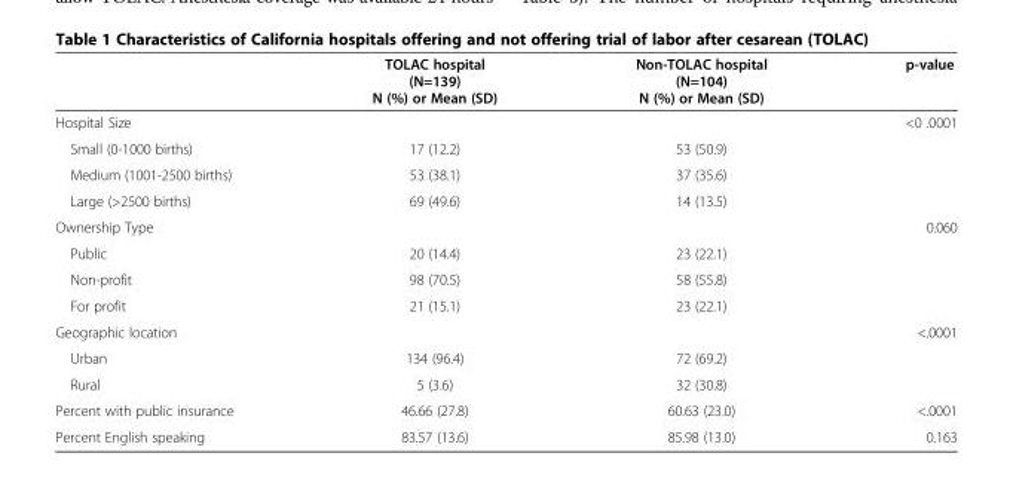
<table><thead><tr><td></td><td>TOLAC hospital (N=139) N (%) or Mean (SD)</td><td>Non-TOLAC hospital (N=104) N (%) or Mean (SD)</td><td>p-value</td></tr></thead><tbody><tr><td>Hospital Size</td><td></td><td></td><td>&lt;0 .0001</td></tr><tr><td>Small (0-1000 births)</td><td>17 (12.2)</td><td>53 (50.9)</td><td></td></tr><tr><td>Medium (1001-2500 births)</td><td>53 (38.1)</td><td>37 (35.6)</td><td></td></tr><tr><td>Large (&gt;2500 births)</td><td>69 (49.6)</td><td>14 (13.5)</td><td></td></tr><tr><td>Ownership Type</td><td></td><td></td><td>0.060</td></tr><tr><td>Public</td><td>20 (14.4)</td><td>23 (22.1)</td><td></td></tr><tr><td>Non-profit</td><td>98 (70.5)</td><td>58 (55.8)</td><td></td></tr><tr><td>For profit</td><td>21 (15.1)</td><td>23 (22.1)</td><td></td></tr><tr><td>Geographic location</td><td></td><td></td><td>&lt;.0001</td></tr><tr><td>Urban</td><td>134 (96.4)</td><td>72 (69.2)</td><td></td></tr><tr><td>Rural</td><td>5 (3.6)</td><td>32 (30.8)</td><td></td></tr><tr><td>Percent with public insurance</td><td>46.66 (27.8)</td><td>60.63 (23.0)</td><td>&lt;.0001</td></tr><tr><td>Percent English speaking</td><td>83.57 (13.6)</td><td>85.98 (13.0)</td><td>0.163</td></tr></tbody></table>